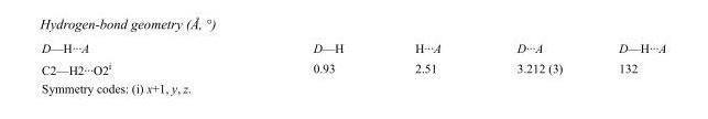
<table><tbody><tr><td>D—H···A</td><td>D—H</td><td>H···A</td><td>D···A</td><td>D—H···A</td></tr><tr><td>C2—H2···O2<sup>i</sup></td><td>0.93</td><td>2.51</td><td>3.212 (3)</td><td>132</td></tr></tbody></table>